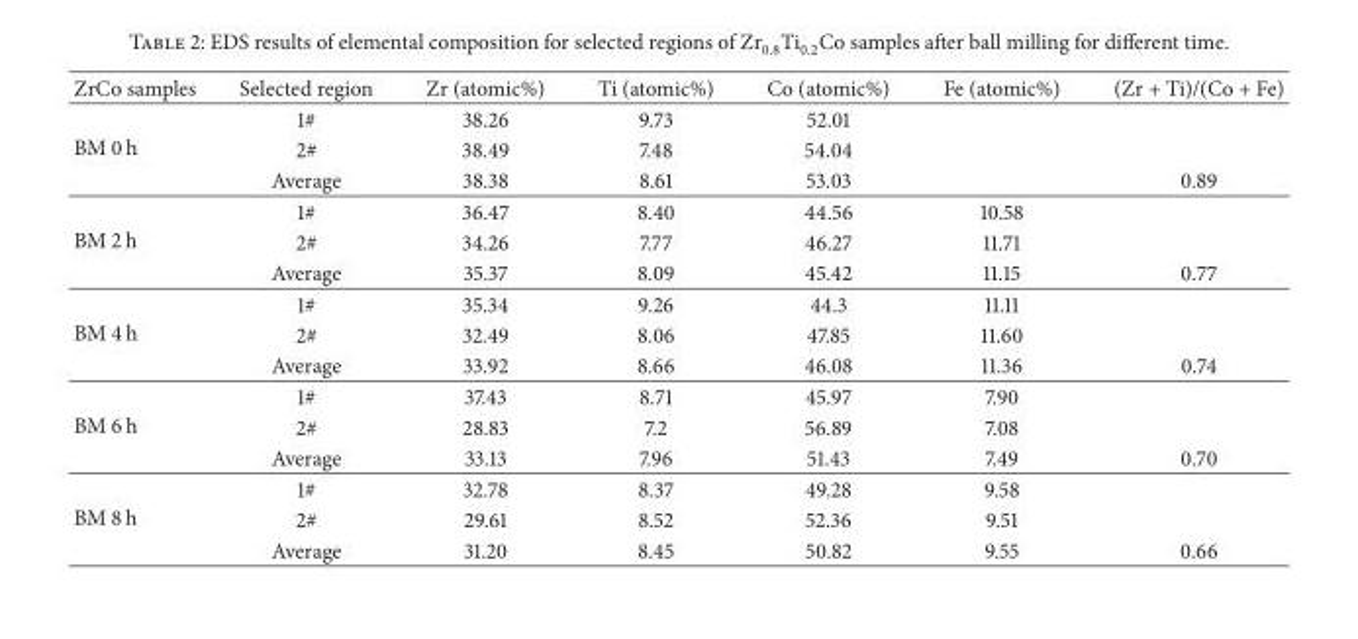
<table><thead><tr><td>ZrCo samples</td><td>Selected region</td><td>Zr (atomic%)</td><td>Ti (atomic%)</td><td>Co (atomic%)</td><td>Fe (atomic%)</td><td>(Zr + Ti)/(Co + Fe)</td></tr></thead><tbody><tr><td rowspan="3">BM 0 h</td><td>1#</td><td>38.26</td><td>9.73</td><td>52.01</td><td></td><td></td></tr><tr><td>2#</td><td>38.49</td><td>7.48</td><td>54.04</td><td></td><td></td></tr><tr><td>Average</td><td>38.38</td><td>8.61</td><td>53.03</td><td></td><td>0.89</td></tr><tr><td rowspan="3">BM 2 h</td><td>1#</td><td>36.47</td><td>8.40</td><td>44.56</td><td>10.58</td><td></td></tr><tr><td>2#</td><td>34.26</td><td>7.77</td><td>46.27</td><td>11.71</td><td></td></tr><tr><td>Average</td><td>35.37</td><td>8.09</td><td>45.42</td><td>11.15</td><td>0.77</td></tr><tr><td rowspan="3">BM 4 h</td><td>1#</td><td>35.34</td><td>9.26</td><td>44.3</td><td>11.11</td><td></td></tr><tr><td>2#</td><td>32.49</td><td>8.06</td><td>47.85</td><td>11.60</td><td></td></tr><tr><td>Average</td><td>33.92</td><td>8.66</td><td>46.08</td><td>11.36</td><td>0.74</td></tr><tr><td rowspan="3">BM 6 h</td><td>1#</td><td>37.43</td><td>8.71</td><td>45.97</td><td>7.90</td><td></td></tr><tr><td>2#</td><td>28.83</td><td>7.2</td><td>56.89</td><td>7.08</td><td></td></tr><tr><td>Average</td><td>33.13</td><td>7.96</td><td>51.43</td><td>7.49</td><td>0.70</td></tr><tr><td rowspan="3">BM 8 h</td><td>1#</td><td>32.78</td><td>8.37</td><td>49.28</td><td>9.58</td><td></td></tr><tr><td>2#</td><td>29.61</td><td>8.52</td><td>52.36</td><td>9.51</td><td></td></tr><tr><td>Average</td><td>31.20</td><td>8.45</td><td>50.82</td><td>9.55</td><td>0.66</td></tr></tbody></table>